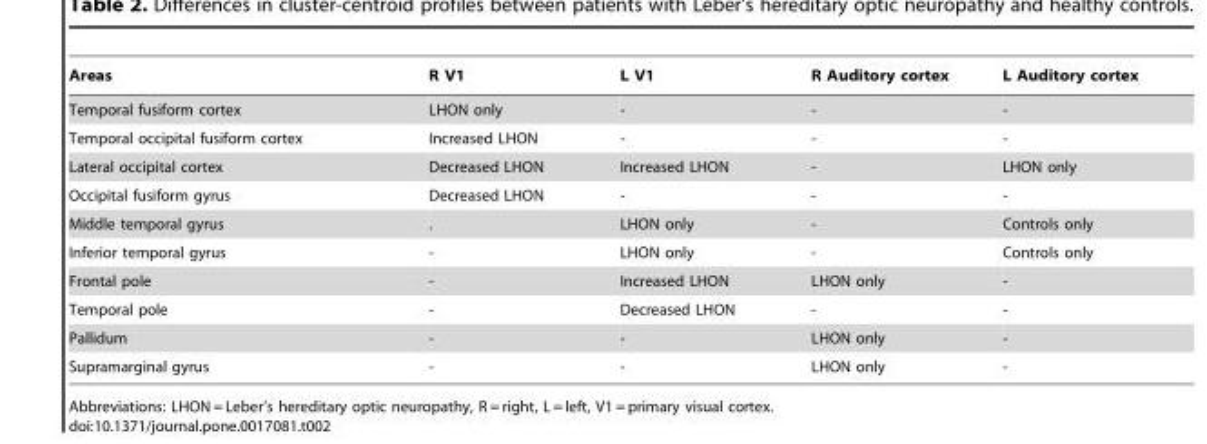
<table><thead><tr><td>Areas</td><td>R V1</td><td>L V1</td><td>R Auditory cortex</td><td>L Auditory cortex</td></tr></thead><tbody><tr><td>Temporal fusiform cortex</td><td>LHON only</td><td>-</td><td>-</td><td>-</td></tr><tr><td>Temporal occipital fusiform cortex</td><td>Increased LHON</td><td>-</td><td>-</td><td>-</td></tr><tr><td>Lateral occipital cortex</td><td>Decreased LHON</td><td>Increased LHON</td><td>-</td><td>LHON only</td></tr><tr><td>Occipital fusiform gyrus</td><td>Decreased LHON</td><td>-</td><td>-</td><td>-</td></tr><tr><td>Middle temporal gyrus</td><td>.</td><td>LHON only</td><td>-</td><td>Controls only</td></tr><tr><td>Inferior temporal gyrus</td><td>-</td><td>LHON only</td><td>-</td><td>Controls only</td></tr><tr><td>Frontal pole</td><td>-</td><td>Increased LHON</td><td>LHON only</td><td>-</td></tr><tr><td>Temporal pole</td><td>-</td><td>Decreased LHON</td><td>-</td><td>-</td></tr><tr><td>Pallidum</td><td>-</td><td>-</td><td>LHON only</td><td>-</td></tr><tr><td>Supramarginal gyrus</td><td>-</td><td>-</td><td>LHON only</td><td>-</td></tr></tbody></table>